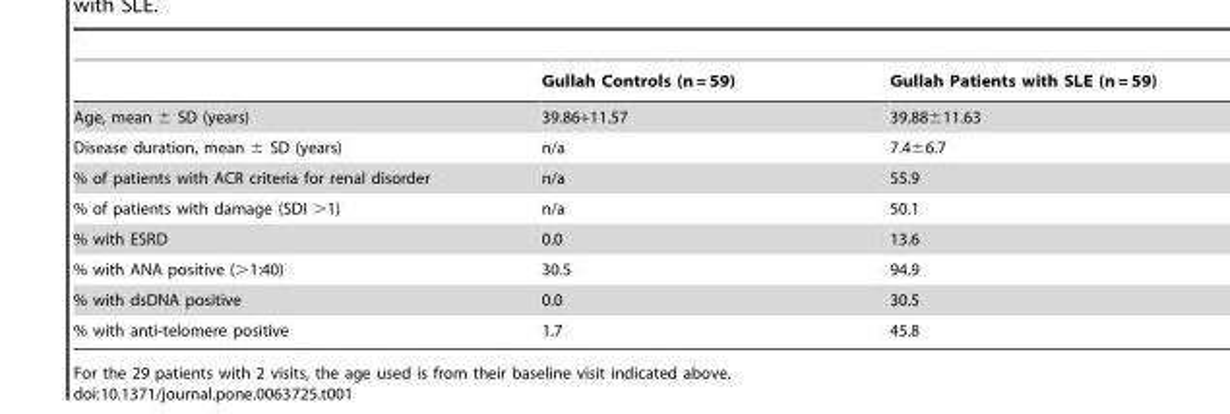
<table><thead><tr><td></td><td>Gullah Controls (n = 59)</td><td>Gullah Patients with SLE (n = 59)</td></tr></thead><tbody><tr><td>Age, mean ± SD (years)</td><td>39.86+11.57</td><td>39.88±11.63</td></tr><tr><td>Disease duration, mean ± SD (years)</td><td>n/a</td><td>7.4±6.7</td></tr><tr><td>% of patients with ACR criteria for renal disorder</td><td>n/a</td><td>55.9</td></tr><tr><td>% of patients with damage (SDI &gt;1)</td><td>n/a</td><td>50.1</td></tr><tr><td>% with ESRD</td><td>0.0</td><td>13.6</td></tr><tr><td>% with ANA positive (&gt;1:40)</td><td>30.5</td><td>94.9</td></tr><tr><td>% with dsDNA positive</td><td>0.0</td><td>30.5</td></tr><tr><td>% with anti-telomere positive</td><td>1.7</td><td>45.8</td></tr></tbody></table>